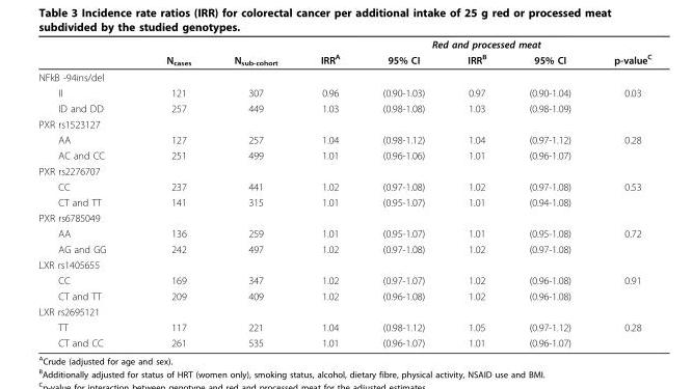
<table><thead><tr><td rowspan="2"></td><td rowspan="2">N<sub>cases</sub></td><td rowspan="2">N<sub>sub-cohort</sub></td><td colspan="5">Red and processed meat</td></tr><tr><td>IRR<sup>A</sup></td><td>95% CI</td><td>IRR<sup>B</sup></td><td>95% CI</td><td>p-value<sup>C</sup></td></tr></thead><tbody><tr><td colspan="8">NFkB -94ins/del</td></tr><tr><td>II</td><td>121</td><td>307</td><td>0.96</td><td>(0.90-1.03)</td><td>0.97</td><td>(0.90-1.04)</td><td>0.03</td></tr><tr><td>ID and DD</td><td>257</td><td>449</td><td>1.03</td><td>(0.98-1.08)</td><td>1.03</td><td>(0.98-1.09)</td><td></td></tr><tr><td colspan="8">PXR rs1523127</td></tr><tr><td>AA</td><td>127</td><td>257</td><td>1.04</td><td>(0.98-1.12)</td><td>1.04</td><td>(0.97-1.12)</td><td>0.28</td></tr><tr><td>AC and CC</td><td>251</td><td>499</td><td>1.01</td><td>(0.96-1.06)</td><td>1.01</td><td>(0.96-1.07)</td><td></td></tr><tr><td colspan="8">PXR rs2276707</td></tr><tr><td>CC</td><td>237</td><td>441</td><td>1.02</td><td>(0.97-1.08)</td><td>1.02</td><td>(0.97-1.08)</td><td>0.53</td></tr><tr><td>CT and TT</td><td>141</td><td>315</td><td>1.01</td><td>(0.95-1.07)</td><td>1.01</td><td>(0.94-1.08)</td><td></td></tr><tr><td colspan="8">PXR rs6785049</td></tr><tr><td>AA</td><td>136</td><td>259</td><td>1.01</td><td>(0.95-1.07)</td><td>1.01</td><td>(0.95-1.08)</td><td>0.72</td></tr><tr><td>AG and GG</td><td>242</td><td>497</td><td>1.02</td><td>(0.97-1.08)</td><td>1.02</td><td>(0.97-1.08)</td><td></td></tr><tr><td colspan="8">LXR rs1405655</td></tr><tr><td>CC</td><td>169</td><td>347</td><td>1.02</td><td>(0.97-1.07)</td><td>1.02</td><td>(0.96-1.08)</td><td>0.91</td></tr><tr><td>CT and TT</td><td>209</td><td>409</td><td>1.02</td><td>(0.96-1.08)</td><td>1.02</td><td>(0.96-1.08)</td><td></td></tr><tr><td colspan="8">LXR rs2695121</td></tr><tr><td>TT</td><td>117</td><td>221</td><td>1.04</td><td>(0.98-1.12)</td><td>1.05</td><td>(0.97-1.12)</td><td>0.28</td></tr><tr><td>CT and CC</td><td>261</td><td>535</td><td>1.01</td><td>(0.96-1.07)</td><td>1.01</td><td>(0.96-1.07)</td><td></td></tr></tbody></table>